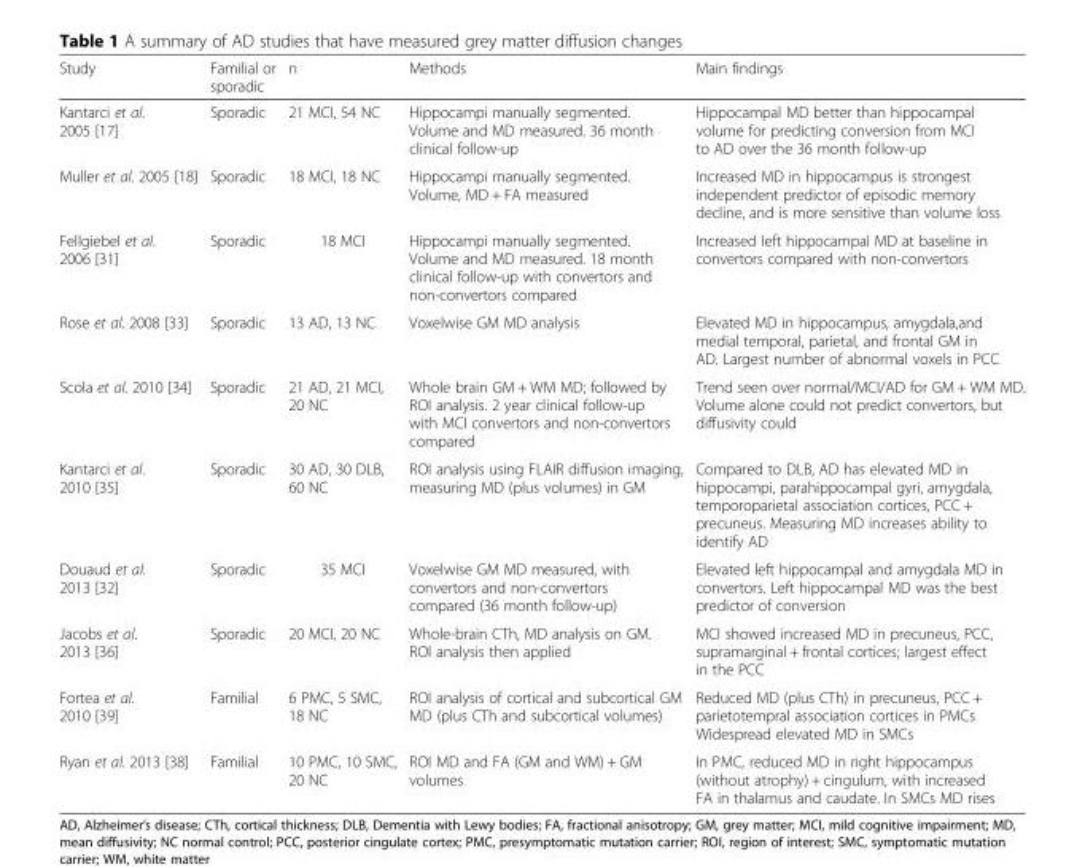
<table><thead><tr><td>Study</td><td>Familial or sporadic</td><td>n</td><td>Methods</td><td>Main findings</td></tr></thead><tbody><tr><td>Kantarci et al. 2005 [17]</td><td>Sporadic</td><td>21 MCI, 54 NC</td><td>Hippocampi manually segmented. Volume and MD measured. 36 month clinical follow-up</td><td>Hippocampal MD better than hippocampal volume for predicting conversion from MCI to AD over the 36 month follow-up</td></tr><tr><td>Muller et al. 2005 [18]</td><td>Sporadic</td><td>18 MCI, 18 NC</td><td>Hippocampi manually segmented. Volume, MD + FA measured</td><td>Increased MD in hippocampus is strongest independent predictor of episodic memory decline, and is more sensitive than volume loss</td></tr><tr><td>Fellgiebel et al. 2006 [31]</td><td>Sporadic</td><td>18 MCI</td><td>Hippocampi manually segmented. Volume and MD measured. 18 month clinical follow-up with convertors and non-convertors compared</td><td>Increased left hippocampal MD at baseline in convertors compared with non-convertors</td></tr><tr><td>Rose et al. 2008 [33]</td><td>Sporadic</td><td>13 AD, 13 NC</td><td>Voxelwise GM MD analysis</td><td>Elevated MD in hippocampus, amygdala,and medial temporal, parietal, and frontal GM in AD. Largest number of abnormal voxels in PCC</td></tr><tr><td>Scola et al. 2010 [34]</td><td>Sporadic</td><td>21 AD, 21 MCI, 20 NC</td><td>Whole brain GM + WM MD; followed by ROI analysis. 2 year clinical follow-up with MCI convertors and non-convertors compared</td><td>Trend seen over normal/MCI/AD for GM + WM MD. Volume alone could not predict convertors, but diffusivity could</td></tr><tr><td>Kantarci et al. 2010 [35]</td><td>Sporadic</td><td>30 AD, 30 DLB, 60 NC</td><td>ROI analysis using FLAIR diffusion imaging, measuring MD (plus volumes) in GM</td><td>Compared to DLB, AD has elevated MD in hippocampi, parahippocampal gyri, amygdala, temporoparietal association cortices, PCC + precuneus. Measuring MD increases ability to identify AD</td></tr><tr><td>Douaud et al. 2013 [32]</td><td>Sporadic</td><td>35 MCI</td><td>Voxelwise GM MD measured, with convertors and non-convertors compared (36 month follow-up)</td><td>Elevated left hippocampal and amygdala MD in convertors. Left hippocampal MD was the best predictor of conversion</td></tr><tr><td>Jacobs et al. 2013 [36]</td><td>Sporadic</td><td>20 MCI, 20 NC</td><td>Whole-brain CTh, MD analysis on GM. ROI analysis then applied</td><td>MCI showed increased MD in precuneus, PCC, supramarginal + frontal cortices; largest effect in the PCC</td></tr><tr><td>Fortea et al. 2010 [39]</td><td>Familial</td><td>6 PMC, 5 SMC, 18 NC</td><td>ROI analysis of cortical and subcortical GM MD (plus CTh and subcortical volumes)</td><td>Reduced MD (plus CTh) in precuneus, PCC + parietotempral association cortices in PMCs Widespread elevated MD in SMCs</td></tr><tr><td>Ryan et al. 2013 [38]</td><td>Familial</td><td>10 PMC, 10 SMC, 20 NC</td><td>ROI MD and FA (GM and WM) + GM volumes</td><td>In PMC, reduced MD in right hippocampus (without atrophy) + cingulum, with increased FA in thalamus and caudate. In SMCs MD rises</td></tr></tbody></table>